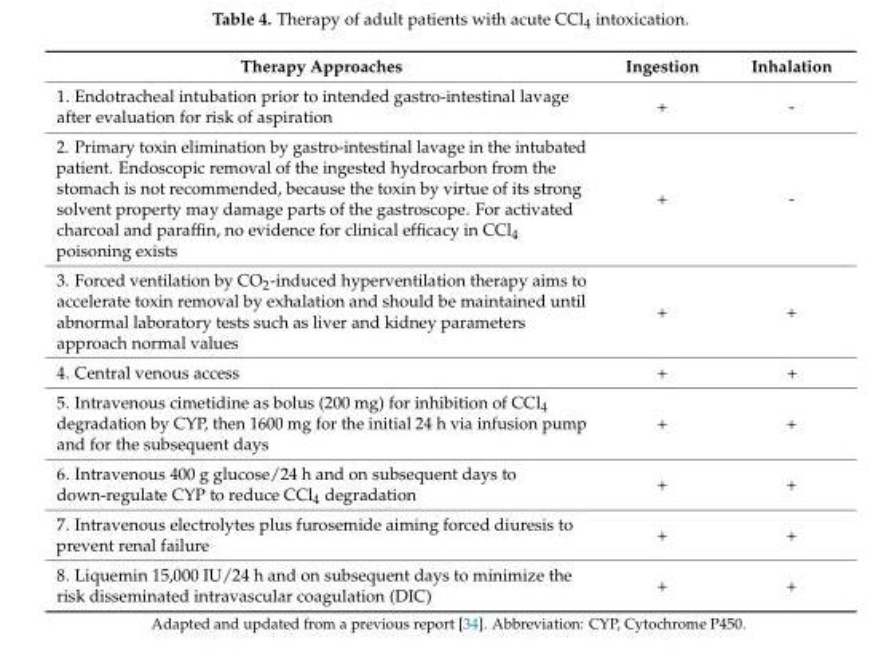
<table><thead><tr><td>Therapy Approaches</td><td>Ingestion</td><td>Inhalation</td></tr></thead><tbody><tr><td>1. Endotracheal intubation prior to intended gastro-intestinal lavage after evaluation for risk of aspiration</td><td>+</td><td>-</td></tr><tr><td>2. Primary toxin elimination by gastro-intestinal lavage in the intubated patient. Endoscopic removal of the ingested hydrocarbon from the stomach is not recommended, because the toxin by virtue of its strong solvent property may damage parts of the gastroscope. For activated charcoal and paraffin, no evidence for clinical efficacy in CCl<sub>4</sub> poisoning exists</td><td>+</td><td>-</td></tr><tr><td>3. Forced ventilation by CO<sub>2</sub>-induced hyperventilation therapy aims to accelerate toxin removal by exhalation and should be maintained until abnormal laboratory tests such as liver and kidney parameters approach normal values</td><td>+</td><td>+</td></tr><tr><td>4. Central venous access</td><td>+</td><td>+</td></tr><tr><td>5. Intravenous cimetidine as bolus (200 mg) for inhibition of CCl<sub>4</sub> degradation by CYP, then 1600 mg for the initial 24 h via infusion pump and for the subsequent days</td><td>+</td><td>+</td></tr><tr><td>6. Intravenous 400 g glucose/24 h and on subsequent days to down-regulate CYP to reduce CCl<sub>4</sub> degradation</td><td>+</td><td>+</td></tr><tr><td>7. Intravenous electrolytes plus furosemide aiming forced diuresis to prevent renal failure</td><td>+</td><td>+</td></tr><tr><td>8. Liquemin 15,000 IU/24 h and on subsequent days to minimize the risk disseminated intravascular coagulation (DIC)</td><td>+</td><td>+</td></tr></tbody></table>